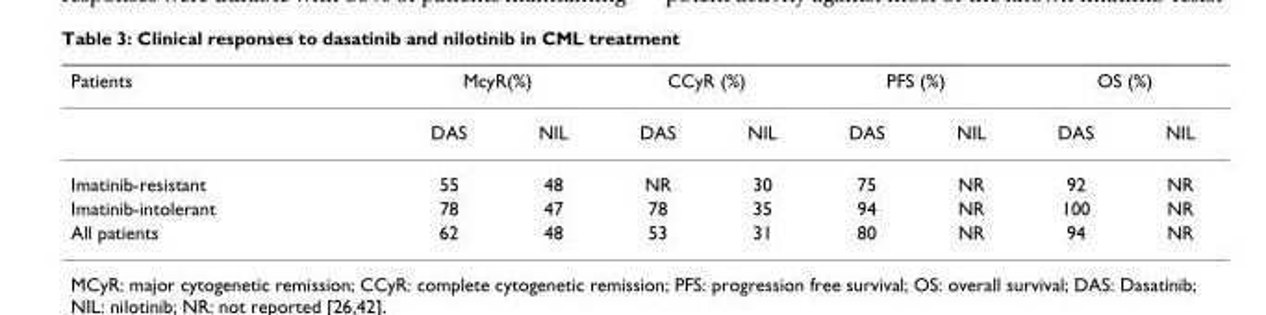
<table><thead><tr><td rowspan="2">Patients</td><td colspan="2">McyR(%)</td><td colspan="2">CCyR (%)</td><td colspan="2">PFS (%)</td><td colspan="2">OS (%)</td></tr><tr><td>DAS</td><td>NIL</td><td>DAS</td><td>NIL</td><td>DAS</td><td>NIL</td><td>DAS</td><td>NIL</td></tr></thead><tbody><tr><td>Imatinib-resistant</td><td>55</td><td>48</td><td>NR</td><td>30</td><td>75</td><td>NR</td><td>92</td><td>NR</td></tr><tr><td>Imatinib-intolerant</td><td>78</td><td>47</td><td>78</td><td>35</td><td>94</td><td>NR</td><td>100</td><td>NR</td></tr><tr><td>All patients</td><td>62</td><td>48</td><td>53</td><td>31</td><td>80</td><td>NR</td><td>94</td><td>NR</td></tr></tbody></table>